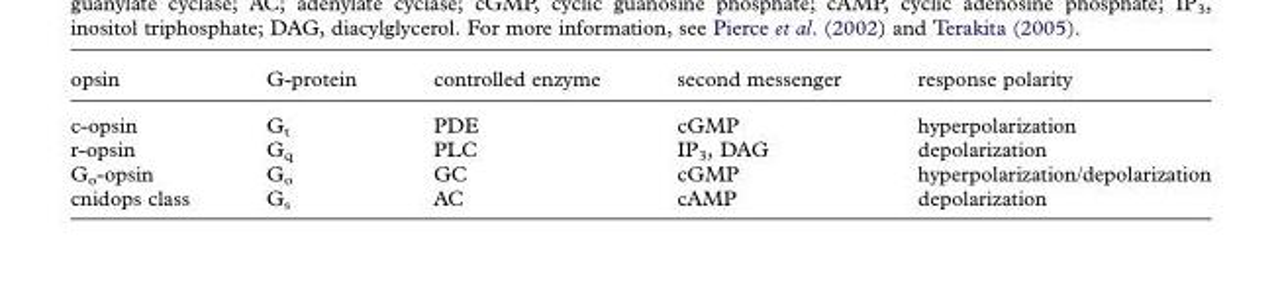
<table><thead><tr><td>opsin</td><td>G-protein</td><td>controlled enzyme</td><td>second messenger</td><td>response polarity</td></tr></thead><tbody><tr><td>c-opsin</td><td>G<sub>t</sub></td><td>PDE</td><td>cGMP</td><td>hyperpolarization</td></tr><tr><td>r-opsin</td><td>G<sub>q</sub></td><td>PLC</td><td>IP<sub>3</sub>, DAG</td><td>depolarization</td></tr><tr><td>G<sub>o</sub>-opsin</td><td>G<sub>o</sub></td><td>GC</td><td>cGMP</td><td>hyperpolarization/depolarization</td></tr><tr><td>cnidops class</td><td>G<sub>s</sub></td><td>AC</td><td>cAMP</td><td>depolarization</td></tr></tbody></table>